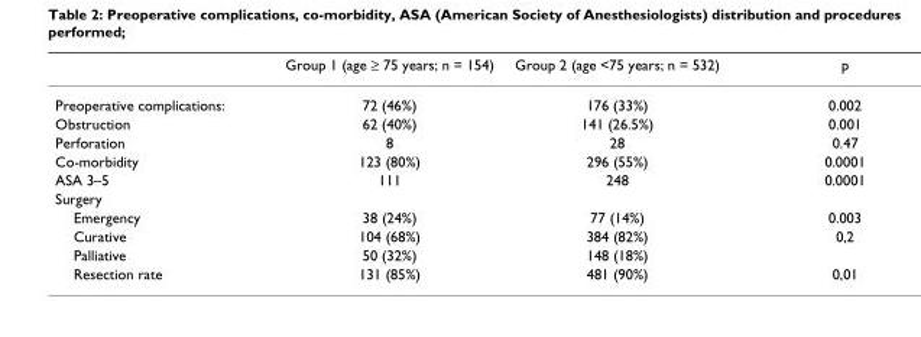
<table><thead><tr><td></td><td>Group 1 (age ≥ 75 years; n = 154)</td><td>Group 2 (age &lt;75 years; n = 532)</td><td>p</td></tr></thead><tbody><tr><td>Preoperative complications:</td><td>72 (46%)</td><td>176 (33%)</td><td>0.002</td></tr><tr><td>Obstruction</td><td>62 (40%)</td><td>141 (26.5%)</td><td>0.001</td></tr><tr><td>Perforation</td><td>8</td><td>28</td><td>0.47</td></tr><tr><td>Co-morbidity</td><td>123 (80%)</td><td>296 (55%)</td><td>0.0001</td></tr><tr><td>ASA 3–5</td><td>111</td><td>248</td><td>0.0001</td></tr><tr><td colspan="4">Surgery</td></tr><tr><td>Emergency</td><td>38 (24%)</td><td>77 (14%)</td><td>0.003</td></tr><tr><td>Curative</td><td>104 (68%)</td><td>384 (82%)</td><td>0,2</td></tr><tr><td>Palliative</td><td>50 (32%)</td><td>148 (18%)</td><td></td></tr><tr><td>Resection rate</td><td>131 (85%)</td><td>481 (90%)</td><td>0,01</td></tr></tbody></table>